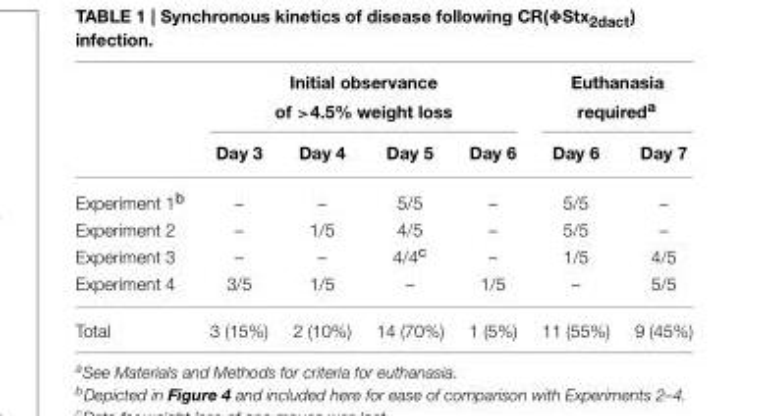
<table><thead><tr><td rowspan="2"></td><td colspan="4">Initial observance of &gt;4.5% weight loss</td><td colspan="2">Euthanasia required<sup>a</sup></td></tr><tr><td>Day 3</td><td>Day 4</td><td>Day 5</td><td>Day 6</td><td>Day 6</td><td>Day 7</td></tr></thead><tbody><tr><td>Experiment 1<sup>b</sup></td><td>–</td><td>–</td><td>5/5</td><td>–</td><td>5/5</td><td>–</td></tr><tr><td>Experiment 2</td><td>–</td><td>1/5</td><td>4/5</td><td>–</td><td>5/5</td><td>–</td></tr><tr><td>Experiment 3</td><td>–</td><td>–</td><td>4/4<sup>c</sup></td><td>–</td><td>1/5</td><td>4/5</td></tr><tr><td>Experiment 4</td><td>3/5</td><td>1/5</td><td>–</td><td>1/5</td><td>–</td><td>5/5</td></tr><tr><td>Total</td><td>3 (15%)</td><td>2 (10%)</td><td>14 (70%)</td><td>1 (5%)</td><td>11 (55%)</td><td>9 (45%)</td></tr></tbody></table>